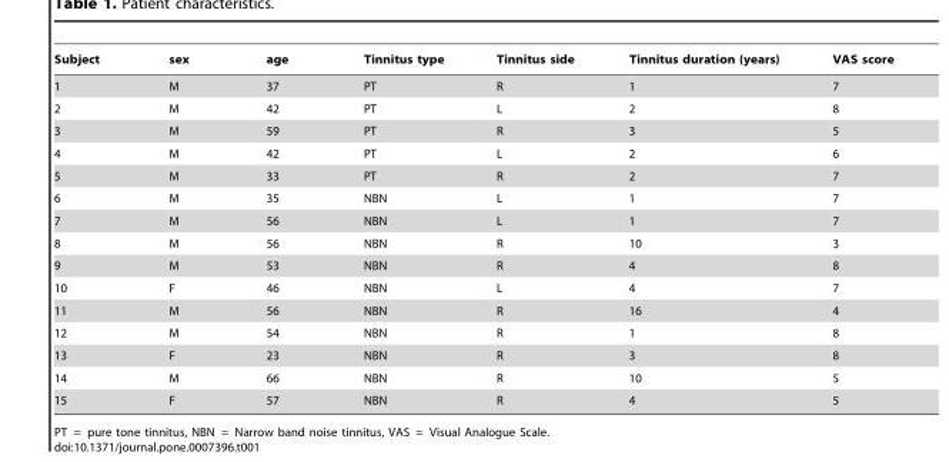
<table><thead><tr><td>Subject</td><td>sex</td><td>age</td><td>Tinnitus type</td><td>Tinnitus side</td><td>Tinnitus duration (years)</td><td>VAS score</td></tr></thead><tbody><tr><td>1</td><td>M</td><td>37</td><td>PT</td><td>R</td><td>1</td><td>7</td></tr><tr><td>2</td><td>M</td><td>42</td><td>PT</td><td>L</td><td>2</td><td>8</td></tr><tr><td>3</td><td>M</td><td>59</td><td>PT</td><td>R</td><td>3</td><td>5</td></tr><tr><td>4</td><td>M</td><td>42</td><td>PT</td><td>L</td><td>2</td><td>6</td></tr><tr><td>5</td><td>M</td><td>33</td><td>PT</td><td>R</td><td>2</td><td>7</td></tr><tr><td>6</td><td>M</td><td>35</td><td>NBN</td><td>L</td><td>1</td><td>7</td></tr><tr><td>7</td><td>M</td><td>56</td><td>NBN</td><td>L</td><td>1</td><td>7</td></tr><tr><td>8</td><td>M</td><td>56</td><td>NBN</td><td>R</td><td>10</td><td>3</td></tr><tr><td>9</td><td>M</td><td>53</td><td>NBN</td><td>R</td><td>4</td><td>8</td></tr><tr><td>10</td><td>F</td><td>46</td><td>NBN</td><td>L</td><td>4</td><td>7</td></tr><tr><td>11</td><td>M</td><td>56</td><td>NBN</td><td>R</td><td>16</td><td>4</td></tr><tr><td>12</td><td>M</td><td>54</td><td>NBN</td><td>R</td><td>1</td><td>8</td></tr><tr><td>13</td><td>F</td><td>23</td><td>NBN</td><td>R</td><td>3</td><td>8</td></tr><tr><td>14</td><td>M</td><td>66</td><td>NBN</td><td>R</td><td>10</td><td>5</td></tr><tr><td>15</td><td>F</td><td>57</td><td>NBN</td><td>R</td><td>4</td><td>5</td></tr></tbody></table>